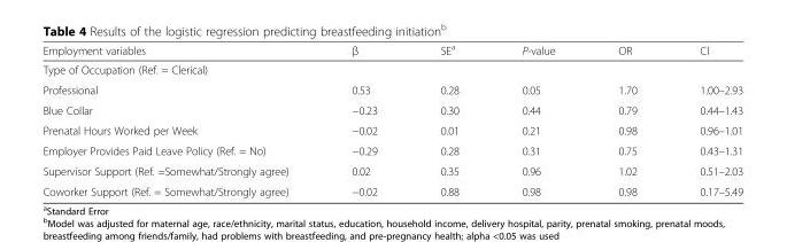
<table><thead><tr><td>Employment variables</td><td>β</td><td>SE<sup>a</sup></td><td>P-value</td><td>OR</td><td>CI</td></tr></thead><tbody><tr><td colspan="6">Type of Occupation (Ref. = Clerical)</td></tr><tr><td>Professional</td><td>0.53</td><td>0.28</td><td>0.05</td><td>1.70</td><td>1.00–2.93</td></tr><tr><td>Blue Collar</td><td>−0.23</td><td>0.30</td><td>0.44</td><td>0.79</td><td>0.44–1.43</td></tr><tr><td>Prenatal Hours Worked per Week</td><td>−0.02</td><td>0.01</td><td>0.21</td><td>0.98</td><td>0.96–1.01</td></tr><tr><td>Employer Provides Paid Leave Policy (Ref. = No)</td><td>−0.29</td><td>0.28</td><td>0.31</td><td>0.75</td><td>0.43–1.31</td></tr><tr><td>Supervisor Support (Ref. =Somewhat/Strongly agree)</td><td>0.02</td><td>0.35</td><td>0.96</td><td>1.02</td><td>0.51–2.03</td></tr><tr><td>Coworker Support (Ref. = Somewhat/Strongly agree)</td><td>−0.02</td><td>0.88</td><td>0.98</td><td>0.98</td><td>0.17–5.49</td></tr></tbody></table>